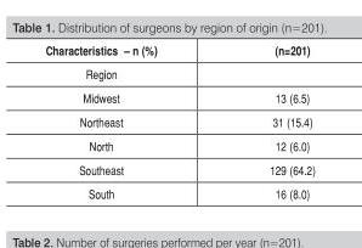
<table><thead><tr><td>Characteristics – n (%)</td><td>(n=201)</td></tr></thead><tbody><tr><td colspan="2">Region</td></tr><tr><td>Midwest</td><td>13 (6.5)</td></tr><tr><td>Northeast</td><td>31 (15.4)</td></tr><tr><td>North</td><td>12 (6.0)</td></tr><tr><td>Southeast</td><td>129 (64.2)</td></tr><tr><td>South</td><td>16 (8.0)</td></tr></tbody></table>